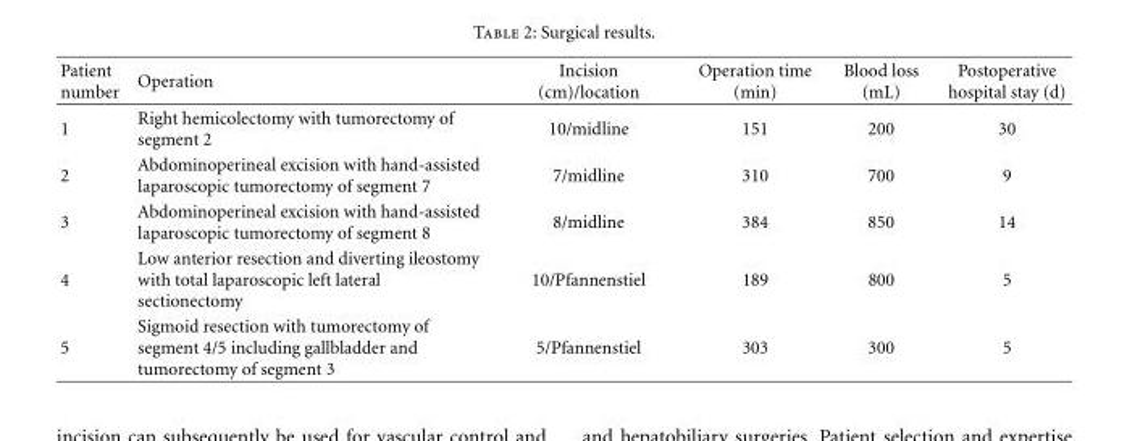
<table><thead><tr><td>Patient number</td><td>Operation</td><td>Incision (cm)/location</td><td>Operation time (min)</td><td>Blood loss (mL)</td><td>Postoperative hospital stay (d)</td></tr></thead><tbody><tr><td>1</td><td>Right hemicolectomy with tumorectomy of segment 2</td><td>10/midline</td><td>151</td><td>200</td><td>30</td></tr><tr><td>2</td><td>Abdominoperineal excision with hand-assisted laparoscopic tumorectomy of segment 7</td><td>7/midline</td><td>310</td><td>700</td><td>9</td></tr><tr><td>3</td><td>Abdominoperineal excision with hand-assisted laparoscopic tumorectomy of segment 8</td><td>8/midline</td><td>384</td><td>850</td><td>14</td></tr><tr><td>4</td><td>Low anterior resection and diverting ileostomy with total laparoscopic left lateral sectionectomy</td><td>10/Pfannenstiel</td><td>189</td><td>800</td><td>5</td></tr><tr><td>5</td><td>Sigmoid resection with tumorectomy of segment 4/5 including gallbladder and tumorectomy of segment 3</td><td>5/Pfannenstiel</td><td>303</td><td>300</td><td>5</td></tr></tbody></table>